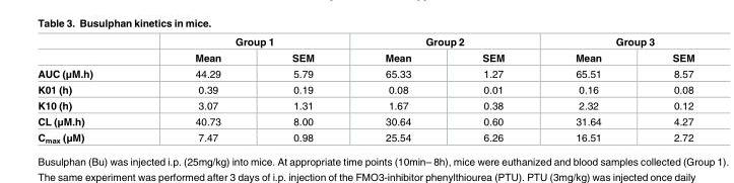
<table><thead><tr><td rowspan="2"></td><td colspan="2">Group 1</td><td colspan="2">Group 2</td><td colspan="2">Group 3</td></tr><tr><td>Mean</td><td>SEM</td><td>Mean</td><td>SEM</td><td>Mean</td><td>SEM</td></tr></thead><tbody><tr><td>AUC (μM.h)</td><td>44.29</td><td>5.79</td><td>65.33</td><td>1.27</td><td>65.51</td><td>8.57</td></tr><tr><td>K01 (h)</td><td>0.39</td><td>0.19</td><td>0.08</td><td>0.01</td><td>0.16</td><td>0.08</td></tr><tr><td>K10 (h)</td><td>3.07</td><td>1.31</td><td>1.67</td><td>0.38</td><td>2.32</td><td>0.12</td></tr><tr><td>CL (μM.h)</td><td>40.73</td><td>8.00</td><td>30.64</td><td>0.60</td><td>31.64</td><td>4.27</td></tr><tr><td>C<sub>max</sub> (μM)</td><td>7.47</td><td>0.98</td><td>25.54</td><td>6.26</td><td>16.51</td><td>2.72</td></tr></tbody></table>